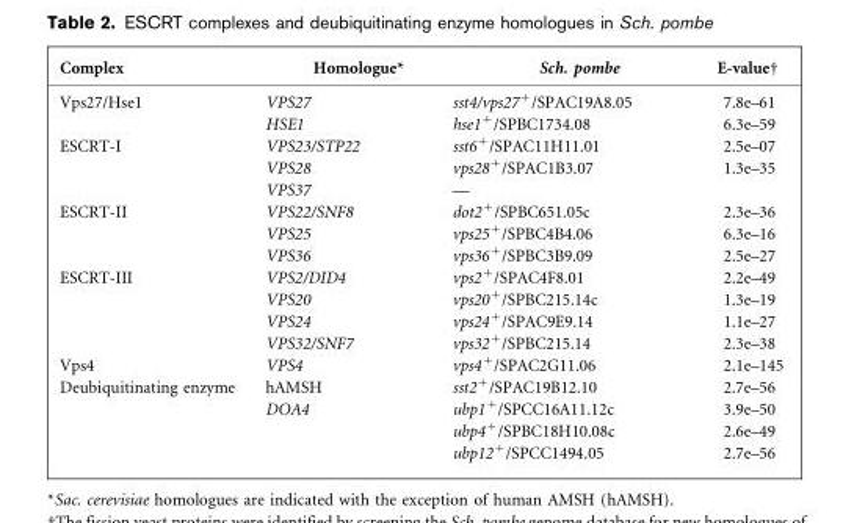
<table><thead><tr><td>Complex</td><td>Homologue*</td><td>Sch. pombe</td><td>E-value†</td></tr></thead><tbody><tr><td rowspan="2">Vps27/Hse1</td><td>VPS27</td><td>sst4/vps27<sup>+</sup>/SPAC19A8.05</td><td>7.8e–61</td></tr><tr><td>HSE1</td><td>hse1<sup>+</sup>/SPBC1734.08</td><td>6.3e–59</td></tr><tr><td rowspan="3">ESCRT-I</td><td>VPS23/STP22</td><td>sst6<sup>+</sup>/SPAC11H11.01</td><td>2.5e–07</td></tr><tr><td>VPS28</td><td>vps28<sup>+</sup>/SPAC1B3.07</td><td>1.3e–35</td></tr><tr><td>VPS37</td><td>—</td><td></td></tr><tr><td rowspan="3">ESCRT-II</td><td>VPS22/SNF8</td><td>dot2<sup>+</sup>/SPBC651.05c</td><td>2.3e–36</td></tr><tr><td>VPS25</td><td>vps25<sup>+</sup>/SPBC4B4.06</td><td>6.3e–16</td></tr><tr><td>VPS36</td><td>vps36<sup>+</sup>/SPBC3B9.09</td><td>2.5e–27</td></tr><tr><td rowspan="4">ESCRT-III</td><td>VPS2/DID4</td><td>vps2<sup>+</sup>/SPAC4F8.01</td><td>2.2e–49</td></tr><tr><td>VPS20</td><td>vps20<sup>+</sup>/SPBC215.14c</td><td>1.3e–19</td></tr><tr><td>VPS24</td><td>vps24<sup>+</sup>/SPAC9E9.14</td><td>1.1e–27</td></tr><tr><td>VPS32/SNF7</td><td>vps32<sup>+</sup>/SPBC215.14</td><td>2.3e–38</td></tr><tr><td>Vps4</td><td>VPS4</td><td>vps4<sup>+</sup>/SPAC2G11.06</td><td>2.1e–145</td></tr><tr><td rowspan="4">Deubiquitinating enzyme</td><td>hAMSH</td><td>sst2<sup>+</sup>/SPAC19B12.10</td><td>2.7e–56</td></tr><tr><td>DOA4</td><td>ubp1<sup>+</sup>/SPCC16A11.12c</td><td>3.9e–50</td></tr><tr><td></td><td>ubp4<sup>+</sup>/SPBC18H10.08c</td><td>2.6e–49</td></tr><tr><td></td><td>ubp12<sup>+</sup>/SPCC1494.05</td><td>2.7e–56</td></tr></tbody></table>